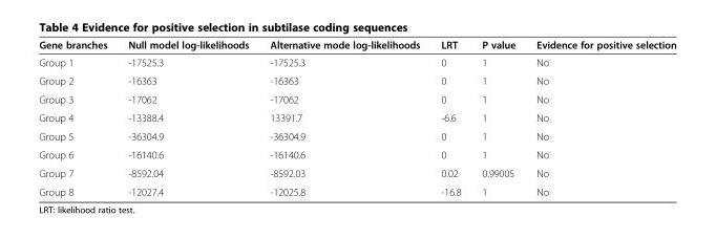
<table><thead><tr><td>Gene branches</td><td>Null model log-likelihoods</td><td>Alternative mode log-likelihoods</td><td>LRT</td><td>P value</td><td>Evidence for positive selection</td></tr></thead><tbody><tr><td>Group 1</td><td>-17525.3</td><td>-17525.3</td><td>0</td><td>1</td><td>No</td></tr><tr><td>Group 2</td><td>-16363</td><td>-16363</td><td>0</td><td>1</td><td>No</td></tr><tr><td>Group 3</td><td>-17062</td><td>-17062</td><td>0</td><td>1</td><td>No</td></tr><tr><td>Group 4</td><td>-13388.4</td><td>13391.7</td><td>-6.6</td><td>1</td><td>No</td></tr><tr><td>Group 5</td><td>-36304.9</td><td>-36304.9</td><td>0</td><td>1</td><td>No</td></tr><tr><td>Group 6</td><td>-16140.6</td><td>-16140.6</td><td>0</td><td>1</td><td>No</td></tr><tr><td>Group 7</td><td>-8592.04</td><td>-8592.03</td><td>0.02</td><td>0.99005</td><td>No</td></tr><tr><td>Group 8</td><td>-12027.4</td><td>-12025.8</td><td>-16.8</td><td>1</td><td>No</td></tr></tbody></table>